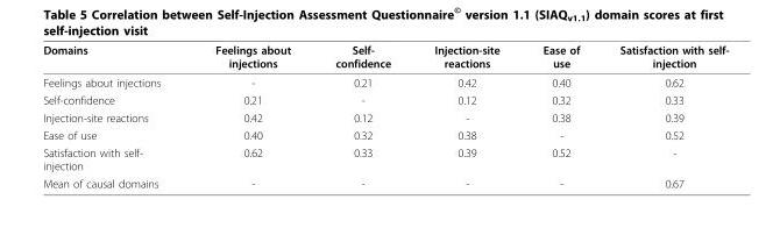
<table><thead><tr><td>Domains</td><td>Feelings about injections</td><td>Self- confidence</td><td>Injection-site reactions</td><td>Ease of use</td><td>Satisfaction with self- injection</td></tr></thead><tbody><tr><td>Feelings about injections</td><td>-</td><td>0.21</td><td>0.42</td><td>0.40</td><td>0.62</td></tr><tr><td>Self-confidence</td><td>0.21</td><td>-</td><td>0.12</td><td>0.32</td><td>0.33</td></tr><tr><td>Injection-site reactions</td><td>0.42</td><td>0.12</td><td>-</td><td>0.38</td><td>0.39</td></tr><tr><td>Ease of use</td><td>0.40</td><td>0.32</td><td>0.38</td><td>-</td><td>0.52</td></tr><tr><td>Satisfaction with self- injection</td><td>0.62</td><td>0.33</td><td>0.39</td><td>0.52</td><td>-</td></tr><tr><td>Mean of causal domains</td><td>-</td><td>-</td><td>-</td><td>-</td><td>0.67</td></tr></tbody></table>